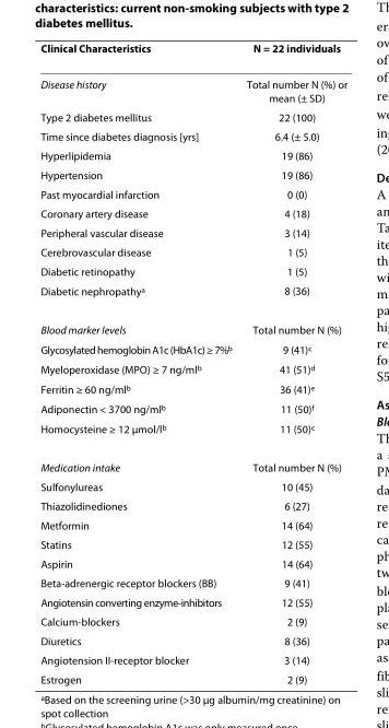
<table><thead><tr><td>Clinical Characteristics</td><td>N = 22 individuals</td></tr></thead><tbody><tr><td>Disease history</td><td>Total number N (%) or mean (± SD)</td></tr><tr><td>Type 2 diabetes mellitus</td><td>22 (100)</td></tr><tr><td>Time since diabetes diagnosis [yrs]</td><td>6.4 (± 5.0)</td></tr><tr><td>Hyperlipidemia</td><td>19 (86)</td></tr><tr><td>Hypertension</td><td>19 (86)</td></tr><tr><td>Past myocardial infarction</td><td>0 (0)</td></tr><tr><td>Coronary artery disease</td><td>4 (18)</td></tr><tr><td>Peripheral vascular disease</td><td>3 (14)</td></tr><tr><td>Cerebrovascular disease</td><td>1 (5)</td></tr><tr><td>Diabetic retinopathy</td><td>1 (5)</td></tr><tr><td>Diabetic nephropathy<sup>a</sup></td><td>8 (36)</td></tr><tr><td>Blood marker levels</td><td>Total number N (%)</td></tr><tr><td>Glycosylated hemoglobin A1c (HbA1c) ≥ 7%<sup>b</sup></td><td>9 (41)<sup>c</sup></td></tr><tr><td>Myeloperoxidase (MPO) ≥ 7 ng/ml<sup>b</sup></td><td>41 (51)<sup>d</sup></td></tr><tr><td>Ferritin ≥ 60 ng/ml<sup>b</sup></td><td>36 (41)<sup>e</sup></td></tr><tr><td>Adiponectin &lt; 3700 ng/ml<sup>b</sup></td><td>11 (50)<sup>f</sup></td></tr><tr><td>Homocysteine ≥ 12 μmol/l<sup>b</sup></td><td>11 (50)<sup>c</sup></td></tr><tr><td>Medication intake</td><td>Total number N (%)</td></tr><tr><td>Sulfonylureas</td><td>10 (45)</td></tr><tr><td>Thiazolidinediones</td><td>6 (27)</td></tr><tr><td>Metformin</td><td>14 (64)</td></tr><tr><td>Statins</td><td>12 (55)</td></tr><tr><td>Aspirin</td><td>14 (64)</td></tr><tr><td>Beta-adrenergic receptor blockers (BB)</td><td>9 (41)</td></tr><tr><td>Angiotensin converting enzyme-inhibitors</td><td>12 (55)</td></tr><tr><td>Calcium-blockers</td><td>2 (9)</td></tr><tr><td>Diuretics</td><td>8 (36)</td></tr><tr><td>Angiotension II-receptor blocker</td><td>3 (14)</td></tr><tr><td>Estrogen</td><td>2 (9)</td></tr></tbody></table>